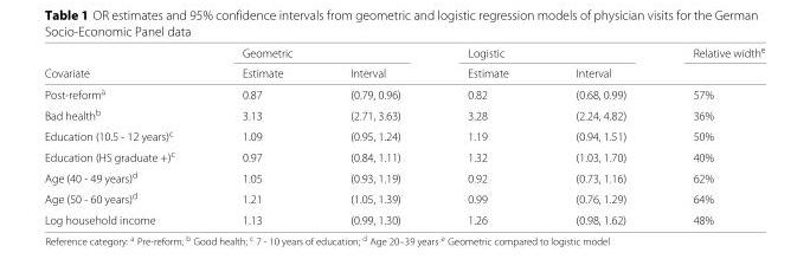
<table><thead><tr><td rowspan="2">Covariate</td><td colspan="2">Geometric</td><td colspan="2">Logistic</td><td rowspan="2">Relative width<sup>e</sup></td></tr><tr><td>Estimate</td><td>Interval</td><td>Estimate</td><td>Interval</td></tr></thead><tbody><tr><td>Post-reform<sup>a</sup></td><td>0.87</td><td>(0.79, 0.96)</td><td>0.82</td><td>(0.68, 0.99)</td><td>57%</td></tr><tr><td>Bad health<sup>b</sup></td><td>3.13</td><td>(2.71, 3.63)</td><td>3.28</td><td>(2.24, 4.82)</td><td>36%</td></tr><tr><td>Education (10.5 - 12 years)<sup>c</sup></td><td>1.09</td><td>(0.95, 1.24)</td><td>1.19</td><td>(0.94, 1.51)</td><td>50%</td></tr><tr><td>Education (HS graduate +)<sup>c</sup></td><td>0.97</td><td>(0.84, 1.11)</td><td>1.32</td><td>(1.03, 1.70)</td><td>40%</td></tr><tr><td>Age (40 - 49 years)<sup>d</sup></td><td>1.05</td><td>(0.93, 1.19)</td><td>0.92</td><td>(0.73, 1.16)</td><td>62%</td></tr><tr><td>Age (50 - 60 years)<sup>d</sup></td><td>1.21</td><td>(1.05, 1.39)</td><td>0.99</td><td>(0.76, 1.29)</td><td>64%</td></tr><tr><td>Log household income</td><td>1.13</td><td>(0.99, 1.30)</td><td>1.26</td><td>(0.98, 1.62)</td><td>48%</td></tr></tbody></table>